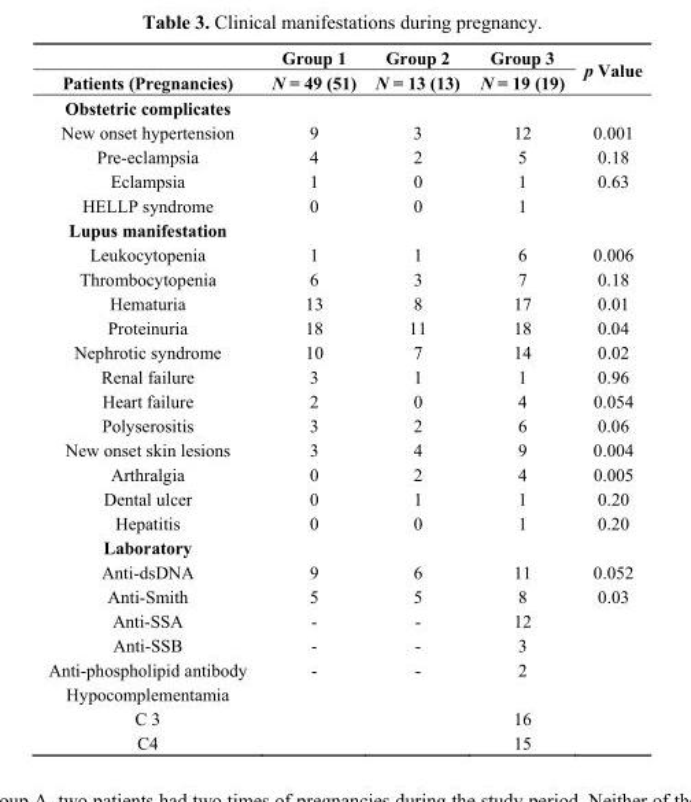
<table><thead><tr><td rowspan="2">Patients (Pregnancies)</td><td rowspan="2">Group 1 N = 49 (51)</td><td rowspan="2">Group 2 N = 13 (13)</td><td rowspan="2">Group 3 N = 19 (19)</td><td rowspan="2">p Value</td></tr><tr></tr></thead><tbody><tr><td colspan="5">Obstetric complicates</td></tr><tr><td>New onset hypertension</td><td>9</td><td>3</td><td>12</td><td>0.001</td></tr><tr><td>Pre-eclampsia</td><td>4</td><td>2</td><td>5</td><td>0.18</td></tr><tr><td>Eclampsia</td><td>1</td><td>0</td><td>1</td><td>0.63</td></tr><tr><td>HELLP syndrome</td><td>0</td><td>0</td><td>1</td><td></td></tr><tr><td colspan="5">Lupus manifestation</td></tr><tr><td>Leukocytopenia</td><td>1</td><td>1</td><td>6</td><td>0.006</td></tr><tr><td>Thrombocytopenia</td><td>6</td><td>3</td><td>7</td><td>0.18</td></tr><tr><td>Hematuria</td><td>13</td><td>8</td><td>17</td><td>0.01</td></tr><tr><td>Proteinuria</td><td>18</td><td>11</td><td>18</td><td>0.04</td></tr><tr><td>Nephrotic syndrome</td><td>10</td><td>7</td><td>14</td><td>0.02</td></tr><tr><td>Renal failure</td><td>3</td><td>1</td><td>1</td><td>0.96</td></tr><tr><td>Heart failure</td><td>2</td><td>0</td><td>4</td><td>0.054</td></tr><tr><td>Polyserositis</td><td>3</td><td>2</td><td>6</td><td>0.06</td></tr><tr><td>New onset skin lesions</td><td>3</td><td>4</td><td>9</td><td>0.004</td></tr><tr><td>Arthralgia</td><td>0</td><td>2</td><td>4</td><td>0.005</td></tr><tr><td>Dental ulcer</td><td>0</td><td>1</td><td>1</td><td>0.20</td></tr><tr><td>Hepatitis</td><td>0</td><td>0</td><td>1</td><td>0.20</td></tr><tr><td colspan="5">Laboratory</td></tr><tr><td>Anti-dsDNA</td><td>9</td><td>6</td><td>11</td><td>0.052</td></tr><tr><td>Anti-Smith</td><td>5</td><td>5</td><td>8</td><td>0.03</td></tr><tr><td>Anti-SSA</td><td>-</td><td>-</td><td>12</td><td></td></tr><tr><td>Anti-SSB</td><td>-</td><td>-</td><td>3</td><td></td></tr><tr><td>Anti-phospholipid antibody</td><td>-</td><td>-</td><td>2</td><td></td></tr><tr><td colspan="5">Hypocomplementamia</td></tr><tr><td>C 3</td><td></td><td></td><td>16</td><td></td></tr><tr><td>C4</td><td></td><td></td><td>15</td><td></td></tr></tbody></table>